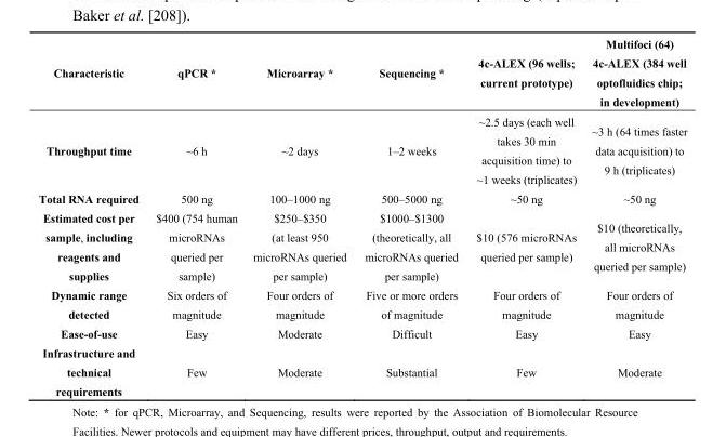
<table><thead><tr><td>Characteristic</td><td>qPCR *</td><td>Microarray *</td><td>Sequencing *</td><td>4c-ALEX (96 wells; current prototype)</td><td>Multifoci (64) 4c-ALEX (384 well optofluidics chip; in development)</td></tr></thead><tbody><tr><td>Throughput time</td><td>~6 h</td><td>~2 days</td><td>1–2 weeks</td><td>~2.5 days (each well takes 30 min acquisition time) to ~1 weeks (triplicates)</td><td>~3 h (64 times faster data acquisition) to 9 h (triplicates)</td></tr><tr><td>Total RNA required</td><td>500 ng</td><td>100–1000 ng</td><td>500–5000 ng</td><td>~50 ng</td><td>~50 ng</td></tr><tr><td>Estimated cost per sample, including reagents and supplies</td><td>$400 (754 human microRNAs queried per sample)</td><td>$250–$350 (at least 950 microRNAs queried per sample)</td><td>$1000–$1300 (theoretically, all microRNAs queried per sample)</td><td>$10 (576 microRNAs queried per sample)</td><td>$10 (theoretically, all microRNAs queried per sample)</td></tr><tr><td>Dynamic range detected</td><td>Six orders of magnitude</td><td>Four orders of magnitude</td><td>Five or more orders of magnitude</td><td>Four orders of magnitude</td><td>Four orders of magnitude</td></tr><tr><td>Ease-of-use</td><td>Easy</td><td>Moderate</td><td>Difficult</td><td>Easy</td><td>Easy</td></tr><tr><td>Infrastructure and technical requirements</td><td>Few</td><td>Moderate</td><td>Substantial</td><td>Few</td><td>Moderate</td></tr></tbody></table>